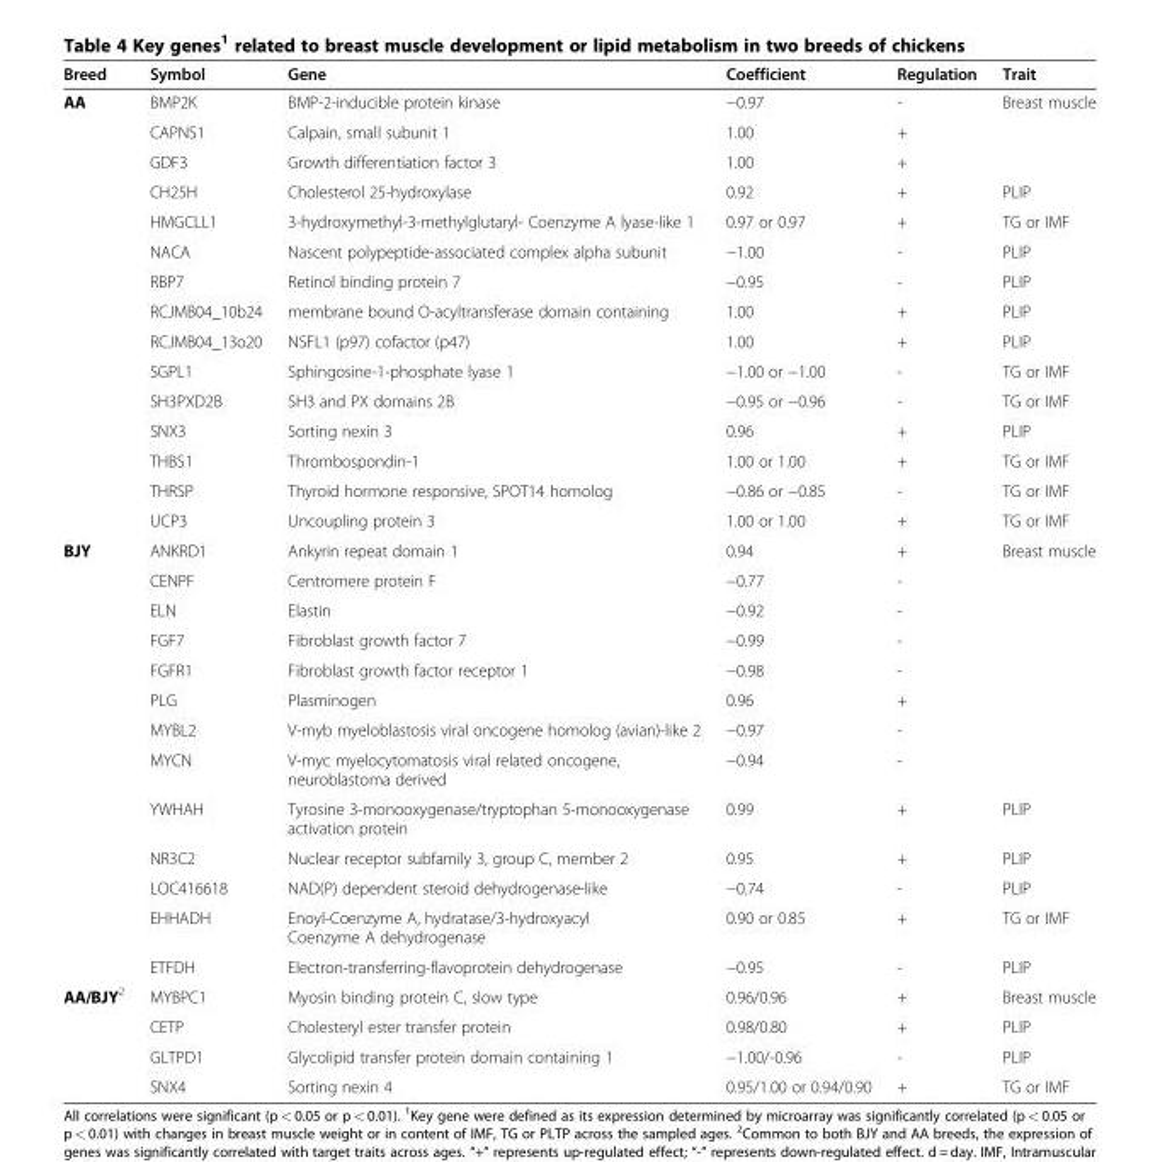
<table><thead><tr><td>Breed</td><td>Symbol</td><td>Gene</td><td>Coefficient</td><td>Regulation</td><td>Trait</td></tr></thead><tbody><tr><td rowspan="15">AA</td><td>BMP2K</td><td>BMP-2-inducible protein kinase</td><td>−0.97</td><td>-</td><td rowspan="3">Breast muscle</td></tr><tr><td>CAPNS1</td><td>Calpain, small subunit 1</td><td>1.00</td><td>+</td></tr><tr><td>GDF3</td><td>Growth differentiation factor 3</td><td>1.00</td><td>+</td></tr><tr><td>CH25H</td><td>Cholesterol 25-hydroxylase</td><td>0.92</td><td>+</td><td>PLIP</td></tr><tr><td>HMGCLL1</td><td>3-hydroxymethyl-3-methylglutaryl- Coenzyme A lyase-like 1</td><td>0.97 or 0.97</td><td>+</td><td>TG or IMF</td></tr><tr><td>NACA</td><td>Nascent polypeptide-associated complex alpha subunit</td><td>−1.00</td><td>-</td><td>PLIP</td></tr><tr><td>RBP7</td><td>Retinol binding protein 7</td><td>−0.95</td><td>-</td><td>PLIP</td></tr><tr><td>RCJMB04_10b24</td><td>membrane bound O-acyltransferase domain containing</td><td>1.00</td><td>+</td><td>PLIP</td></tr><tr><td>RCJMB04_13o20</td><td>NSFL1 (p97) cofactor (p47)</td><td>1.00</td><td>+</td><td>PLIP</td></tr><tr><td>SGPL1</td><td>Sphingosine-1-phosphate lyase 1</td><td>−1.00 or −1.00</td><td>-</td><td>TG or IMF</td></tr><tr><td>SH3PXD2B</td><td>SH3 and PX domains 2B</td><td>−0.95 or −0.96</td><td>-</td><td>TG or IMF</td></tr><tr><td>SNX3</td><td>Sorting nexin 3</td><td>0.96</td><td>+</td><td>PLIP</td></tr><tr><td>THBS1</td><td>Thrombospondin-1</td><td>1.00 or 1.00</td><td>+</td><td>TG or IMF</td></tr><tr><td>THRSP</td><td>Thyroid hormone responsive, SPOT14 homolog</td><td>−0.86 or −0.85</td><td>-</td><td>TG or IMF</td></tr><tr><td>UCP3</td><td>Uncoupling protein 3</td><td>1.00 or 1.00</td><td>+</td><td>TG or IMF</td></tr><tr><td rowspan="13">BJY</td><td>ANKRD1</td><td>Ankyrin repeat domain 1</td><td>0.94</td><td>+</td><td rowspan="8">Breast muscle</td></tr><tr><td>CENPF</td><td>Centromere protein F</td><td>−0.77</td><td>-</td></tr><tr><td>ELN</td><td>Elastin</td><td>−0.92</td><td>-</td></tr><tr><td>FGF7</td><td>Fibroblast growth factor 7</td><td>−0.99</td><td>-</td></tr><tr><td>FGFR1</td><td>Fibroblast growth factor receptor 1</td><td>−0.98</td><td>-</td></tr><tr><td>PLG</td><td>Plasminogen</td><td>0.96</td><td>+</td></tr><tr><td>MYBL2</td><td>V-myb myeloblastosis viral oncogene homolog (avian)-like 2</td><td>−0.97</td><td>-</td></tr><tr><td>MYCN</td><td>V-myc myelocytomatosis viral related oncogene, neuroblastoma derived</td><td>−0.94</td><td>-</td></tr><tr><td>YWHAH</td><td>Tyrosine 3-monooxygenase/tryptophan 5-monooxygenase activation protein</td><td>0.99</td><td>+</td><td>PLIP</td></tr><tr><td>NR3C2</td><td>Nuclear receptor subfamily 3, group C, member 2</td><td>0.95</td><td>+</td><td>PLIP</td></tr><tr><td>LOC416618</td><td>NAD(P) dependent steroid dehydrogenase-like</td><td>−0.74</td><td>-</td><td>PLIP</td></tr><tr><td>EHHADH</td><td>Enoyl-Coenzyme A, hydratase/3-hydroxyacyl Coenzyme A dehydrogenase</td><td>0.90 or 0.85</td><td>+</td><td>TG or IMF</td></tr><tr><td>ETFDH</td><td>Electron-transferring-flavoprotein dehydrogenase</td><td>−0.95</td><td>-</td><td>PLIP</td></tr><tr><td rowspan="4">AA/BJY<sup>2</sup></td><td>MYBPC1</td><td>Myosin binding protein C, slow type</td><td>0.96/0.96</td><td>+</td><td>Breast muscle</td></tr><tr><td>CETP</td><td>Cholesteryl ester transfer protein</td><td>0.98/0.80</td><td>+</td><td>PLIP</td></tr><tr><td>GLTPD1</td><td>Glycolipid transfer protein domain containing 1</td><td>−1.00/-0.96</td><td>-</td><td>PLIP</td></tr><tr><td>SNX4</td><td>Sorting nexin 4</td><td>0.95/1.00 or 0.94/0.90</td><td>+</td><td>TG or IMF</td></tr></tbody></table>